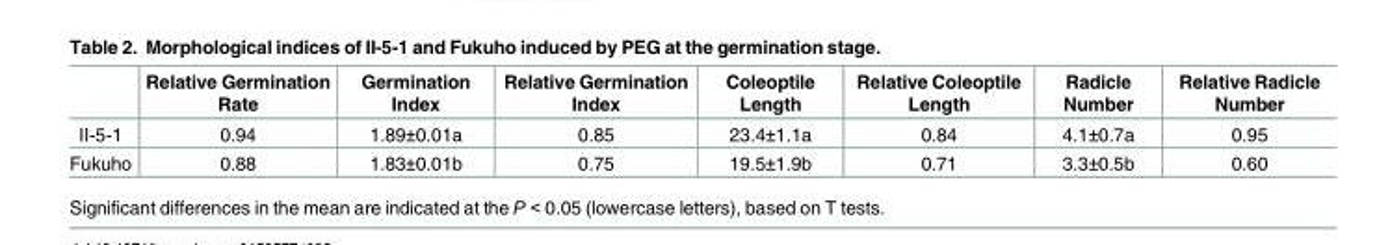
<table><thead><tr><td></td><td>Relative Germination Rate</td><td>Germination Index</td><td>Relative Germination Index</td><td>Coleoptile Length</td><td>Relative Coleoptile Length</td><td>Radicle Number</td><td>Relative Radicle Number</td></tr></thead><tbody><tr><td>II-5-1</td><td>0.94</td><td>1.89±0.01a</td><td>0.85</td><td>23.4±1.1a</td><td>0.84</td><td>4.1±0.7a</td><td>0.95</td></tr><tr><td>Fukuho</td><td>0.88</td><td>1.83±0.01b</td><td>0.75</td><td>19.5±1.9b</td><td>0.71</td><td>3.3±0.5b</td><td>0.60</td></tr></tbody></table>